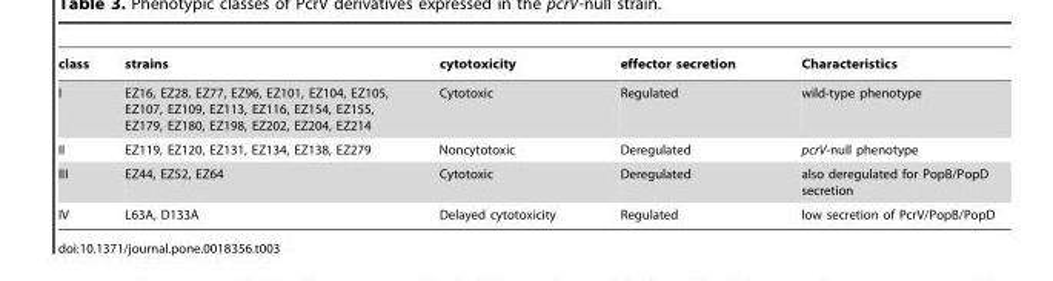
<table><thead><tr><td>class</td><td>strains</td><td>cytotoxicity</td><td>effector secretion</td><td>Characteristics</td></tr></thead><tbody><tr><td>I</td><td>EZ16, EZ28, EZ77, EZ96, EZ101, EZ104, EZ105, EZ107, EZ109, EZ113, EZ116, EZ154, EZ155, EZ179, EZ180, EZ198, EZ202, EZ204, EZ214</td><td>Cytotoxic</td><td>Regulated</td><td>wild-type phenotype</td></tr><tr><td>II</td><td>EZ119, EZ120, EZ131, EZ134, EZ138, EZ279</td><td>Noncytotoxic</td><td>Deregulated</td><td>pcrV-null phenotype</td></tr><tr><td>III</td><td>EZ44, EZ52, EZ64</td><td>Cytotoxic</td><td>Deregulated</td><td>also deregulated for PopB/PopD secretion</td></tr><tr><td>IV</td><td>L63A, D133A</td><td>Delayed cytotoxicity</td><td>Regulated</td><td>low secretion of PcrV/PopB/PopD</td></tr></tbody></table>